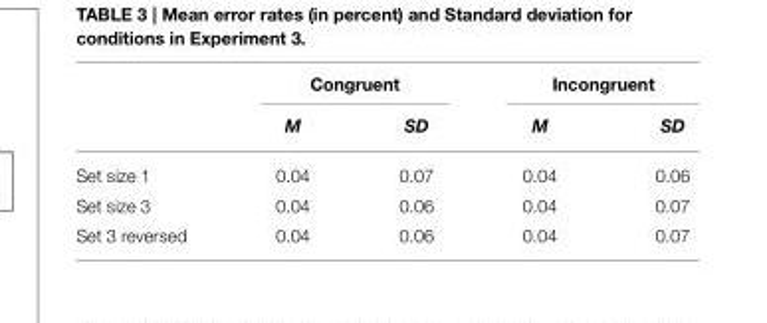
<table><thead><tr><td rowspan="2"></td><td colspan="2">Congruent</td><td colspan="2">Incongruent</td></tr><tr><td>M</td><td>SD</td><td>M</td><td>SD</td></tr></thead><tbody><tr><td>Set size 1</td><td>0.04</td><td>0.07</td><td>0.04</td><td>0.06</td></tr><tr><td>Set size 3</td><td>0.04</td><td>0.06</td><td>0.04</td><td>0.07</td></tr><tr><td>Set 3 reversed</td><td>0.04</td><td>0.06</td><td>0.04</td><td>0.07</td></tr></tbody></table>